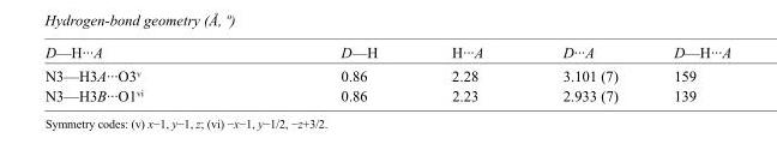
<table><tbody><tr><td>D—H···A</td><td>D—H</td><td>H···A</td><td>D···A</td><td>D—H···A</td></tr><tr><td>N3—H3A···O3<sup>v</sup></td><td>0.86</td><td>2.28</td><td>3.101 (7)</td><td>159</td></tr><tr><td>N3—H3B···O1<sup>vi</sup></td><td>0.86</td><td>2.23</td><td>2.933 (7)</td><td>139</td></tr></tbody></table>